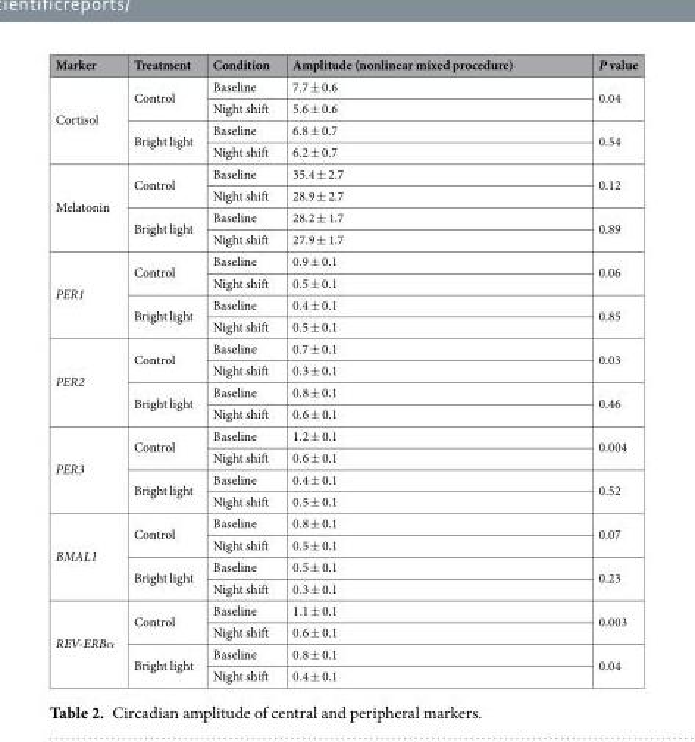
<table><thead><tr><td>Marker</td><td>Treatment</td><td>Condition</td><td>Amplitude (nonlinear mixed procedure)</td><td>P value</td></tr></thead><tbody><tr><td rowspan="4">Cortisol</td><td rowspan="2">Control</td><td>Baseline</td><td>7.7 ± 0.6</td><td rowspan="2">0.04</td></tr><tr><td>Night shift</td><td>5.6 ± 0.6</td></tr><tr><td rowspan="2">Bright light</td><td>Baseline</td><td>6.8 ± 0.7</td><td rowspan="2">0.54</td></tr><tr><td>Night shift</td><td>6.2 ± 0.7</td></tr><tr><td rowspan="4">Melatonin</td><td rowspan="2">Control</td><td>Baseline</td><td>35.4 ± 2.7</td><td rowspan="2">0.12</td></tr><tr><td>Night shift</td><td>28.9 ± 2.7</td></tr><tr><td rowspan="2">Bright light</td><td>Baseline</td><td>28.2 ± 1.7</td><td rowspan="2">0.89</td></tr><tr><td>Night shift</td><td>27.9 ± 1.7</td></tr><tr><td rowspan="4">PER1</td><td rowspan="2">Control</td><td>Baseline</td><td>0.9 ± 0.1</td><td rowspan="2">0.06</td></tr><tr><td>Night shift</td><td>0.5 ± 0.1</td></tr><tr><td rowspan="2">Bright light</td><td>Baseline</td><td>0.4 ± 0.1</td><td rowspan="2">0.85</td></tr><tr><td>Night shift</td><td>0.5 ± 0.1</td></tr><tr><td rowspan="4">PER2</td><td rowspan="2">Control</td><td>Baseline</td><td>0.7 ± 0.1</td><td rowspan="2">0.03</td></tr><tr><td>Night shift</td><td>0.3 ± 0.1</td></tr><tr><td rowspan="2">Bright light</td><td>Baseline</td><td>0.8 ± 0.1</td><td rowspan="2">0.46</td></tr><tr><td>Night shift</td><td>0.6 ± 0.1</td></tr><tr><td rowspan="4">PER3</td><td rowspan="2">Control</td><td>Baseline</td><td>1.2 ± 0.1</td><td rowspan="2">0.004</td></tr><tr><td>Night shift</td><td>0.6 ± 0.1</td></tr><tr><td rowspan="2">Bright light</td><td>Baseline</td><td>0.4 ± 0.1</td><td rowspan="2">0.52</td></tr><tr><td>Night shift</td><td>0.5 ± 0.1</td></tr><tr><td rowspan="4">BMAL1</td><td rowspan="2">Control</td><td>Baseline</td><td>0.8 ± 0.1</td><td rowspan="2">0.07</td></tr><tr><td>Night shift</td><td>0.5 ± 0.1</td></tr><tr><td rowspan="2">Bright light</td><td>Baseline</td><td>0.5 ± 0.1</td><td rowspan="2">0.23</td></tr><tr><td>Night shift</td><td>0.3 ± 0.1</td></tr><tr><td rowspan="4">REV-ERBα</td><td rowspan="2">Control</td><td>Baseline</td><td>1.1 ± 0.1</td><td rowspan="2">0.003</td></tr><tr><td>Night shift</td><td>0.6 ± 0.1</td></tr><tr><td rowspan="2">Bright light</td><td>Baseline</td><td>0.8 ± 0.1</td><td rowspan="2">0.04</td></tr><tr><td>Night shift</td><td>0.4 ± 0.1</td></tr></tbody></table>